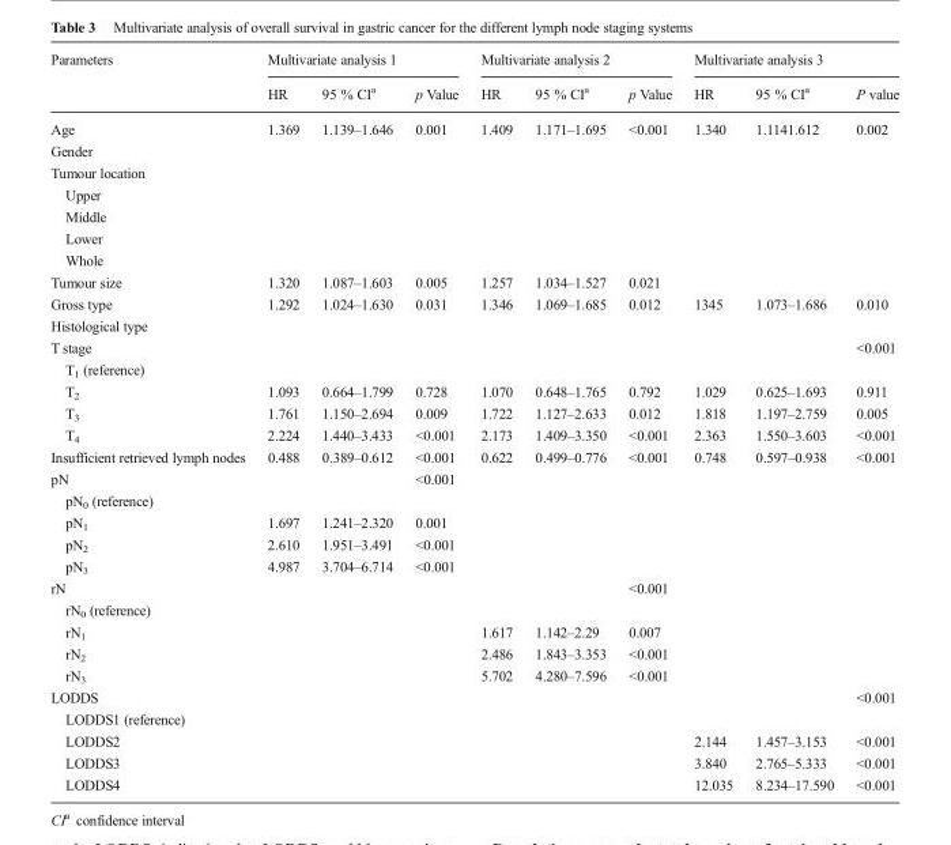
<table><thead><tr><td rowspan="2">Parameters</td><td colspan="3">Multivariate analysis 1</td><td colspan="3">Multivariate analysis 2</td><td colspan="3">Multivariate analysis 3</td></tr><tr><td>HR</td><td>95 % CI<sup>a</sup></td><td>p Value</td><td>HR</td><td>95 % CI<sup>a</sup></td><td>p Value</td><td>HR</td><td>95 % CI<sup>a</sup></td><td>P value</td></tr></thead><tbody><tr><td>Age</td><td>1.369</td><td>1.139–1.646</td><td>0.001</td><td>1.409</td><td>1.171–1.695</td><td>&lt;0.001</td><td>1.340</td><td>1.1141.612</td><td>0.002</td></tr><tr><td colspan="10">Gender</td></tr><tr><td colspan="10">Tumour location</td></tr><tr><td colspan="10">Upper</td></tr><tr><td colspan="10">Middle</td></tr><tr><td colspan="10">Lower</td></tr><tr><td colspan="10">Whole</td></tr><tr><td>Tumour size</td><td>1.320</td><td>1.087–1.603</td><td>0.005</td><td>1.257</td><td>1.034–1.527</td><td>0.021</td><td></td><td></td><td></td></tr><tr><td>Gross type</td><td>1.292</td><td>1.024–1.630</td><td>0.031</td><td>1.346</td><td>1.069–1.685</td><td>0.012</td><td>1345</td><td>1.073–1.686</td><td>0.010</td></tr><tr><td colspan="10">Histological type</td></tr><tr><td>T stage</td><td></td><td></td><td></td><td></td><td></td><td></td><td></td><td></td><td>&lt;0.001</td></tr><tr><td colspan="10">T<sub>1</sub> (reference)</td></tr><tr><td>T<sub>2</sub></td><td>1.093</td><td>0.664–1.799</td><td>0.728</td><td>1.070</td><td>0.648–1.765</td><td>0.792</td><td>1.029</td><td>0.625–1.693</td><td>0.911</td></tr><tr><td>T<sub>3</sub></td><td>1.761</td><td>1.150–2.694</td><td>0.009</td><td>1.722</td><td>1.127–2.633</td><td>0.012</td><td>1.818</td><td>1.197–2.759</td><td>0.005</td></tr><tr><td>T<sub>4</sub></td><td>2.224</td><td>1.440–3.433</td><td>&lt;0.001</td><td>2.173</td><td>1.409–3.350</td><td>&lt;0.001</td><td>2.363</td><td>1.550–3.603</td><td>&lt;0.001</td></tr><tr><td>Insufficient retrieved lymph nodes</td><td>0.488</td><td>0.389–0.612</td><td>&lt;0.001</td><td>0.622</td><td>0.499–0.776</td><td>&lt;0.001</td><td>0.748</td><td>0.597–0.938</td><td>&lt;0.001</td></tr><tr><td>pN</td><td></td><td></td><td>&lt;0.001</td><td></td><td></td><td></td><td></td><td></td><td></td></tr><tr><td colspan="10">pN<sub>0</sub> (reference)</td></tr><tr><td>pN<sub>1</sub></td><td>1.697</td><td>1.241–2.320</td><td>0.001</td><td></td><td></td><td></td><td></td><td></td><td></td></tr><tr><td>pN<sub>2</sub></td><td>2.610</td><td>1.951–3.491</td><td>&lt;0.001</td><td></td><td></td><td></td><td></td><td></td><td></td></tr><tr><td>pN<sub>3</sub></td><td>4.987</td><td>3.704–6.714</td><td>&lt;0.001</td><td></td><td></td><td></td><td></td><td></td><td></td></tr><tr><td>rN</td><td></td><td></td><td></td><td></td><td></td><td>&lt;0.001</td><td></td><td></td><td></td></tr><tr><td colspan="10">rN<sub>0</sub> (reference)</td></tr><tr><td>rN<sub>1</sub></td><td></td><td></td><td></td><td>1.617</td><td>1.142–2.29</td><td>0.007</td><td></td><td></td><td></td></tr><tr><td>rN<sub>2</sub></td><td></td><td></td><td></td><td>2.486</td><td>1.843–3.353</td><td>&lt;0.001</td><td></td><td></td><td></td></tr><tr><td>rN<sub>3</sub></td><td></td><td></td><td></td><td>5.702</td><td>4.280–7.596</td><td>&lt;0.001</td><td></td><td></td><td></td></tr><tr><td>LODDS</td><td></td><td></td><td></td><td></td><td></td><td></td><td></td><td></td><td>&lt;0.001</td></tr><tr><td colspan="10">LODDS1 (reference)</td></tr><tr><td>LODDS2</td><td></td><td></td><td></td><td></td><td></td><td></td><td>2.144</td><td>1.457–3.153</td><td>&lt;0.001</td></tr><tr><td>LODDS3</td><td></td><td></td><td></td><td></td><td></td><td></td><td>3.840</td><td>2.765–5.333</td><td>&lt;0.001</td></tr><tr><td>LODDS4</td><td></td><td></td><td></td><td></td><td></td><td></td><td>12.035</td><td>8.234–17.590</td><td>&lt;0.001</td></tr></tbody></table>